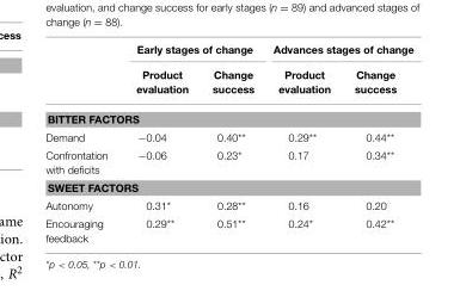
<table><thead><tr><td rowspan="2"></td><td colspan="2">Early stages of change</td><td colspan="2">Advances stages of change</td></tr><tr><td>Product evaluation</td><td>Change success</td><td>Product evaluation</td><td>Change success</td></tr></thead><tbody><tr><td colspan="5">BITTER FACTORS</td></tr><tr><td>Demand</td><td>−0.04</td><td>0.40**</td><td>0.29**</td><td>0.44**</td></tr><tr><td>Confrontation with deficits</td><td>−0.06</td><td>0.23*</td><td>0.17</td><td>0.34**</td></tr><tr><td colspan="5">SWEET FACTORS</td></tr><tr><td>Autonomy</td><td>0.31*</td><td>0.28**</td><td>0.16</td><td>0.20</td></tr><tr><td>Encouraging feedback</td><td>0.29**</td><td>0.51**</td><td>0.24*</td><td>0.42**</td></tr></tbody></table>